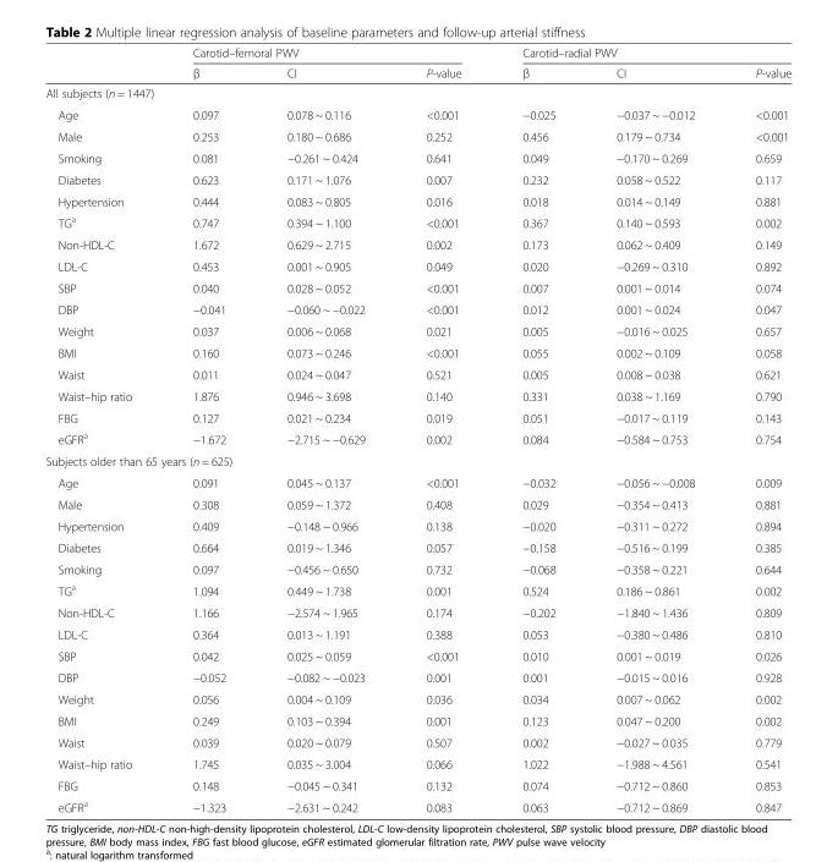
<table><thead><tr><td rowspan="2"></td><td colspan="3">Carotid–femoral PWV</td><td colspan="3">Carotid–radial PWV</td></tr><tr><td>β</td><td>CI</td><td>P-value</td><td>β</td><td>CI</td><td>P-value</td></tr></thead><tbody><tr><td colspan="7">All subjects (n = 1447)</td></tr><tr><td>Age</td><td>0.097</td><td>0.078 ~ 0.116</td><td>&lt;0.001</td><td>−0.025</td><td>−0.037 ~ −0.012</td><td>&lt;0.001</td></tr><tr><td>Male</td><td>0.253</td><td>0.180 ~ 0.686</td><td>0.252</td><td>0.456</td><td>0.179 ~ 0.734</td><td>&lt;0.001</td></tr><tr><td>Smoking</td><td>0.081</td><td>−0.261 ~ 0.424</td><td>0.641</td><td>0.049</td><td>−0.170 ~ 0.269</td><td>0.659</td></tr><tr><td>Diabetes</td><td>0.623</td><td>0.171 ~ 1.076</td><td>0.007</td><td>0.232</td><td>0.058 ~ 0.522</td><td>0.117</td></tr><tr><td>Hypertension</td><td>0.444</td><td>0.083 ~ 0.805</td><td>0.016</td><td>0.018</td><td>0.014 ~ 0.149</td><td>0.881</td></tr><tr><td>TG<sup>a</sup></td><td>0.747</td><td>0.394 ~ 1.100</td><td>&lt;0.001</td><td>0.367</td><td>0.140 ~ 0.593</td><td>0.002</td></tr><tr><td>Non-HDL-C</td><td>1.672</td><td>0.629 ~ 2.715</td><td>0.002</td><td>0.173</td><td>0.062 ~ 0.409</td><td>0.149</td></tr><tr><td>LDL-C</td><td>0.453</td><td>0.001 ~ 0.905</td><td>0.049</td><td>0.020</td><td>−0.269 ~ 0.310</td><td>0.892</td></tr><tr><td>SBP</td><td>0.040</td><td>0.028 ~ 0.052</td><td>&lt;0.001</td><td>0.007</td><td>0.001 ~ 0.014</td><td>0.074</td></tr><tr><td>DBP</td><td>−0.041</td><td>−0.060 ~ −0.022</td><td>&lt;0.001</td><td>0.012</td><td>0.001 ~ 0.024</td><td>0.047</td></tr><tr><td>Weight</td><td>0.037</td><td>0.006 ~ 0.068</td><td>0.021</td><td>0.005</td><td>−0.016 ~ 0.025</td><td>0.657</td></tr><tr><td>BMI</td><td>0.160</td><td>0.073 ~ 0.246</td><td>&lt;0.001</td><td>0.055</td><td>0.002 ~ 0.109</td><td>0.058</td></tr><tr><td>Waist</td><td>0.011</td><td>0.024 ~ 0.047</td><td>0.521</td><td>0.005</td><td>0.008 ~ 0.038</td><td>0.621</td></tr><tr><td>Waist–hip ratio</td><td>1.876</td><td>0.946 ~ 3.698</td><td>0.140</td><td>0.331</td><td>0.038 ~ 1.169</td><td>0.790</td></tr><tr><td>FBG</td><td>0.127</td><td>0.021 ~ 0.234</td><td>0.019</td><td>0.051</td><td>−0.017 ~ 0.119</td><td>0.143</td></tr><tr><td>eGFR<sup>a</sup></td><td>−1.672</td><td>−2.715 ~ −0.629</td><td>0.002</td><td>0.084</td><td>−0.584 ~ 0.753</td><td>0.754</td></tr><tr><td colspan="7">Subjects older than 65 years (n = 625)</td></tr><tr><td>Age</td><td>0.091</td><td>0.045 ~ 0.137</td><td>&lt;0.001</td><td>−0.032</td><td>−0.056 ~ −0.008</td><td>0.009</td></tr><tr><td>Male</td><td>0.308</td><td>0.059 ~ 1.372</td><td>0.408</td><td>0.029</td><td>−0.354 ~ 0.413</td><td>0.881</td></tr><tr><td>Hypertension</td><td>0.409</td><td>−0.148 ~ 0.966</td><td>0.138</td><td>−0.020</td><td>−0.311 ~ 0.272</td><td>0.894</td></tr><tr><td>Diabetes</td><td>0.664</td><td>0.019 ~ 1.346</td><td>0.057</td><td>−0.158</td><td>−0.516 ~ 0.199</td><td>0.385</td></tr><tr><td>Smoking</td><td>0.097</td><td>−0.456 ~ 0.650</td><td>0.732</td><td>−0.068</td><td>−0.358 ~ 0.221</td><td>0.644</td></tr><tr><td>TG<sup>a</sup></td><td>1.094</td><td>0.449 ~ 1.738</td><td>0.001</td><td>0.524</td><td>0.186 ~ 0.861</td><td>0.002</td></tr><tr><td>Non-HDL-C</td><td>1.166</td><td>−2.574 ~ 1.965</td><td>0.174</td><td>−0.202</td><td>−1.840 ~ 1.436</td><td>0.809</td></tr><tr><td>LDL-C</td><td>0.364</td><td>0.013 ~ 1.191</td><td>0.388</td><td>0.053</td><td>−0.380 ~ 0.486</td><td>0.810</td></tr><tr><td>SBP</td><td>0.042</td><td>0.025 ~ 0.059</td><td>&lt;0.001</td><td>0.010</td><td>0.001 ~ 0.019</td><td>0.026</td></tr><tr><td>DBP</td><td>−0.052</td><td>−0.082 ~ −0.023</td><td>0.001</td><td>0.001</td><td>−0.015 ~ 0.016</td><td>0.928</td></tr><tr><td>Weight</td><td>0.056</td><td>0.004 ~ 0.109</td><td>0.036</td><td>0.034</td><td>0.007 ~ 0.062</td><td>0.002</td></tr><tr><td>BMI</td><td>0.249</td><td>0.103 ~ 0.394</td><td>0.001</td><td>0.123</td><td>0.047 ~ 0.200</td><td>0.002</td></tr><tr><td>Waist</td><td>0.039</td><td>0.020 ~ 0.079</td><td>0.507</td><td>0.002</td><td>−0.027 ~ 0.035</td><td>0.779</td></tr><tr><td>Waist–hip ratio</td><td>1.745</td><td>0.035 ~ 3.004</td><td>0.066</td><td>1.022</td><td>−1.988 ~ 4.561</td><td>0.541</td></tr><tr><td>FBG</td><td>0.148</td><td>−0.045 ~ 0.341</td><td>0.132</td><td>0.074</td><td>−0.712 ~ 0.860</td><td>0.853</td></tr><tr><td>eGFR<sup>a</sup></td><td>−1.323</td><td>−2.631 ~ 0.242</td><td>0.083</td><td>0.063</td><td>−0.712 ~ 0.869</td><td>0.847</td></tr></tbody></table>